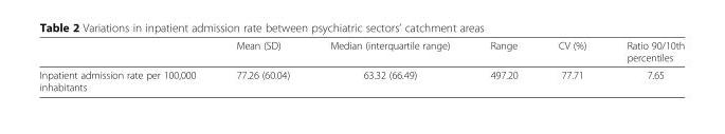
<table><thead><tr><td></td><td>Mean (SD)</td><td>Median (interquartile range)</td><td>Range</td><td>CV (%)</td><td>Ratio 90/10th percentiles</td></tr></thead><tbody><tr><td>Inpatient admission rate per 100,000 inhabitants</td><td>77.26 (60.04)</td><td>63.32 (66.49)</td><td>497.20</td><td>77.71</td><td>7.65</td></tr></tbody></table>